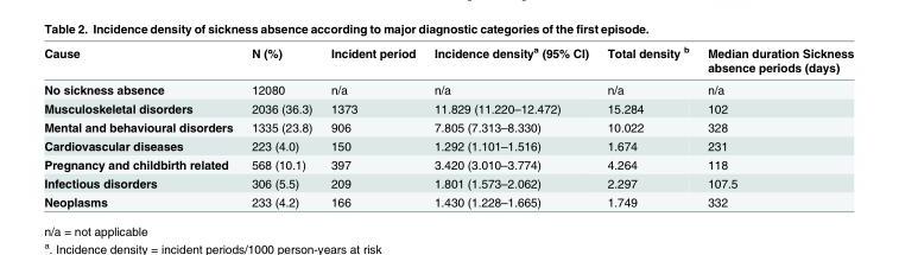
<table><thead><tr><td>Cause</td><td>N (%)</td><td>Incident period</td><td>Incidence density<sup>a</sup> (95% CI)</td><td>Total density <sup>b</sup></td><td>Median duration Sickness absence periods (days)</td></tr></thead><tbody><tr><td>No sickness absence</td><td>12080</td><td>n/a</td><td>n/a</td><td>n/a</td><td>n/a</td></tr><tr><td>Musculoskeletal disorders</td><td>2036 (36.3)</td><td>1373</td><td>11.829 (11.220–12.472)</td><td>15.284</td><td>102</td></tr><tr><td>Mental and behavioural disorders</td><td>1335 (23.8)</td><td>906</td><td>7.805 (7.313–8.330)</td><td>10.022</td><td>328</td></tr><tr><td>Cardiovascular diseases</td><td>223 (4.0)</td><td>150</td><td>1.292 (1.101–1.516)</td><td>1.674</td><td>231</td></tr><tr><td>Pregnancy and childbirth related</td><td>568 (10.1)</td><td>397</td><td>3.420 (3.010–3.774)</td><td>4.264</td><td>118</td></tr><tr><td>Infectious disorders</td><td>306 (5.5)</td><td>209</td><td>1.801 (1.573–2.062)</td><td>2.297</td><td>107.5</td></tr><tr><td>Neoplasms</td><td>233 (4.2)</td><td>166</td><td>1.430 (1.228–1.665)</td><td>1.749</td><td>332</td></tr></tbody></table>